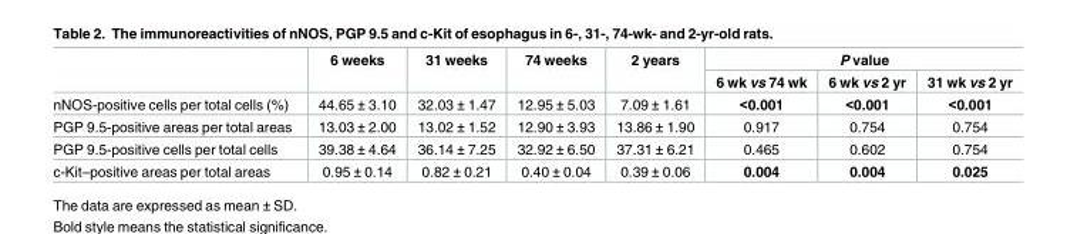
<table><thead><tr><td rowspan="2"></td><td rowspan="2">6 weeks</td><td rowspan="2">31 weeks</td><td rowspan="2">74 weeks</td><td rowspan="2">2 years</td><td colspan="3">P value</td></tr><tr><td>6 wk vs 74 wk</td><td>6 wk vs 2 yr</td><td>31 wk vs 2 yr</td></tr></thead><tbody><tr><td>nNOS-positive cells per total cells (%)</td><td>44.65 ± 3.10</td><td>32.03 ± 1.47</td><td>12.95 ± 5.03</td><td>7.09 ± 1.61</td><td>&lt;0.001</td><td>&lt;0.001</td><td>&lt;0.001</td></tr><tr><td>PGP 9.5-positive areas per total areas</td><td>13.03 ± 2.00</td><td>13.02 ± 1.52</td><td>12.90 ± 3.93</td><td>13.86 ± 1.90</td><td>0.917</td><td>0.754</td><td>0.754</td></tr><tr><td>PGP 9.5-positive cells per total cells</td><td>39.38 ± 4.64</td><td>36.14 ± 7.25</td><td>32.92 ± 6.50</td><td>37.31 ± 6.21</td><td>0.465</td><td>0.602</td><td>0.754</td></tr><tr><td>c-Kit–positive areas per total areas</td><td>0.95 ± 0.14</td><td>0.82 ± 0.21</td><td>0.40 ± 0.04</td><td>0.39 ± 0.06</td><td>0.004</td><td>0.004</td><td>0.025</td></tr></tbody></table>